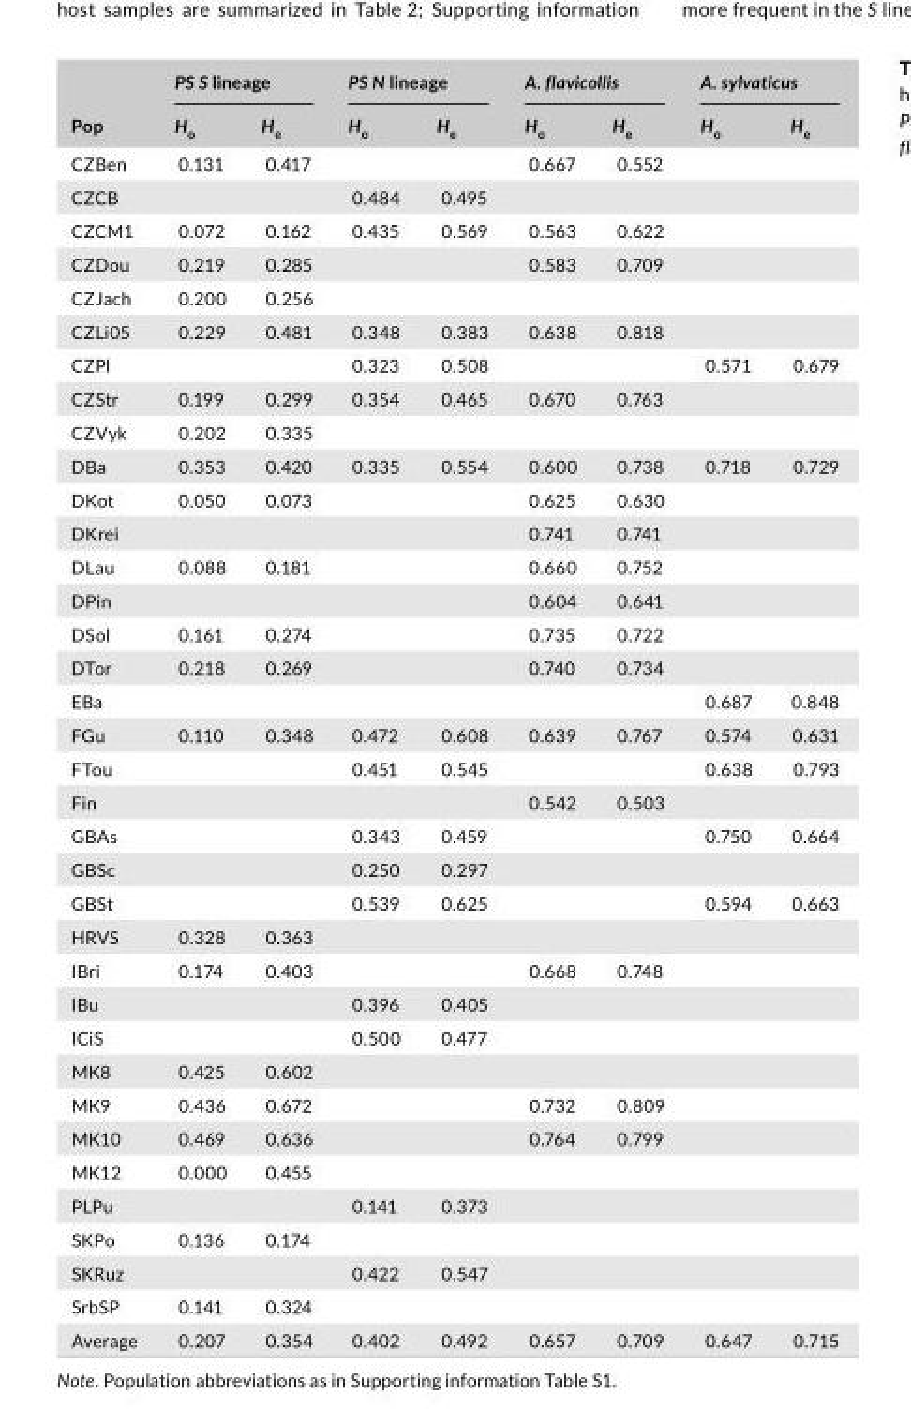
<table><thead><tr><td rowspan="2">Pop</td><td colspan="2">PS S lineage</td><td colspan="2">PS N lineage</td><td colspan="2">A. flavicollis</td><td colspan="2">A. sylvaticus</td></tr><tr><td>H<sub>o</sub></td><td>H<sub>e</sub></td><td>H<sub>o</sub></td><td>H<sub>e</sub></td><td>H<sub>o</sub></td><td>H<sub>e</sub></td><td>H<sub>o</sub></td><td>H<sub>e</sub></td></tr></thead><tbody><tr><td>CZBen</td><td>0.131</td><td>0.417</td><td></td><td></td><td>0.667</td><td>0.552</td><td></td><td></td></tr><tr><td>CZCB</td><td></td><td></td><td>0.484</td><td>0.495</td><td></td><td></td><td></td><td></td></tr><tr><td>CZCM1</td><td>0.072</td><td>0.162</td><td>0.435</td><td>0.569</td><td>0.563</td><td>0.622</td><td></td><td></td></tr><tr><td>CZDou</td><td>0.219</td><td>0.285</td><td></td><td></td><td>0.583</td><td>0.709</td><td></td><td></td></tr><tr><td>CZJach</td><td>0.200</td><td>0.256</td><td></td><td></td><td></td><td></td><td></td><td></td></tr><tr><td>CZLi05</td><td>0.229</td><td>0.481</td><td>0.348</td><td>0.383</td><td>0.638</td><td>0.818</td><td></td><td></td></tr><tr><td>CZPl</td><td></td><td></td><td>0.323</td><td>0.508</td><td></td><td></td><td>0.571</td><td>0.679</td></tr><tr><td>CZStr</td><td>0.199</td><td>0.299</td><td>0.354</td><td>0.465</td><td>0.670</td><td>0.763</td><td></td><td></td></tr><tr><td>CZVyk</td><td>0.202</td><td>0.335</td><td></td><td></td><td></td><td></td><td></td><td></td></tr><tr><td>DBa</td><td>0.353</td><td>0.420</td><td>0.335</td><td>0.554</td><td>0.600</td><td>0.738</td><td>0.718</td><td>0.729</td></tr><tr><td>DKot</td><td>0.050</td><td>0.073</td><td></td><td></td><td>0.625</td><td>0.630</td><td></td><td></td></tr><tr><td>DKrei</td><td></td><td></td><td></td><td></td><td>0.741</td><td>0.741</td><td></td><td></td></tr><tr><td>DLau</td><td>0.088</td><td>0.181</td><td></td><td></td><td>0.660</td><td>0.752</td><td></td><td></td></tr><tr><td>DPin</td><td></td><td></td><td></td><td></td><td>0.604</td><td>0.641</td><td></td><td></td></tr><tr><td>DSol</td><td>0.161</td><td>0.274</td><td></td><td></td><td>0.735</td><td>0.722</td><td></td><td></td></tr><tr><td>DTor</td><td>0.218</td><td>0.269</td><td></td><td></td><td>0.740</td><td>0.734</td><td></td><td></td></tr><tr><td>EBa</td><td></td><td></td><td></td><td></td><td></td><td></td><td>0.687</td><td>0.848</td></tr><tr><td>FGu</td><td>0.110</td><td>0.348</td><td>0.472</td><td>0.608</td><td>0.639</td><td>0.767</td><td>0.574</td><td>0.631</td></tr><tr><td>FTou</td><td></td><td></td><td>0.451</td><td>0.545</td><td></td><td></td><td>0.638</td><td>0.793</td></tr><tr><td>Fin</td><td></td><td></td><td></td><td></td><td>0.542</td><td>0.503</td><td></td><td></td></tr><tr><td>GBAs</td><td></td><td></td><td>0.343</td><td>0.459</td><td></td><td></td><td>0.750</td><td>0.664</td></tr><tr><td>GBSc</td><td></td><td></td><td>0.250</td><td>0.297</td><td></td><td></td><td></td><td></td></tr><tr><td>GBSt</td><td></td><td></td><td>0.539</td><td>0.625</td><td></td><td></td><td>0.594</td><td>0.663</td></tr><tr><td>HRVS</td><td>0.328</td><td>0.363</td><td></td><td></td><td></td><td></td><td></td><td></td></tr><tr><td>IBri</td><td>0.174</td><td>0.403</td><td></td><td></td><td>0.668</td><td>0.748</td><td></td><td></td></tr><tr><td>IBu</td><td></td><td></td><td>0.396</td><td>0.405</td><td></td><td></td><td></td><td></td></tr><tr><td>ICiS</td><td></td><td></td><td>0.500</td><td>0.477</td><td></td><td></td><td></td><td></td></tr><tr><td>MK8</td><td>0.425</td><td>0.602</td><td></td><td></td><td></td><td></td><td></td><td></td></tr><tr><td>MK9</td><td>0.436</td><td>0.672</td><td></td><td></td><td>0.732</td><td>0.809</td><td></td><td></td></tr><tr><td>MK10</td><td>0.469</td><td>0.636</td><td></td><td></td><td>0.764</td><td>0.799</td><td></td><td></td></tr><tr><td>MK12</td><td>0.000</td><td>0.455</td><td></td><td></td><td></td><td></td><td></td><td></td></tr><tr><td>PLPu</td><td></td><td></td><td>0.141</td><td>0.373</td><td></td><td></td><td></td><td></td></tr><tr><td>SKPo</td><td>0.136</td><td>0.174</td><td></td><td></td><td></td><td></td><td></td><td></td></tr><tr><td>SKRuz</td><td></td><td></td><td>0.422</td><td>0.547</td><td></td><td></td><td></td><td></td></tr><tr><td>SrbSP</td><td>0.141</td><td>0.324</td><td></td><td></td><td></td><td></td><td></td><td></td></tr><tr><td>Average</td><td>0.207</td><td>0.354</td><td>0.402</td><td>0.492</td><td>0.657</td><td>0.709</td><td>0.647</td><td>0.715</td></tr></tbody></table>